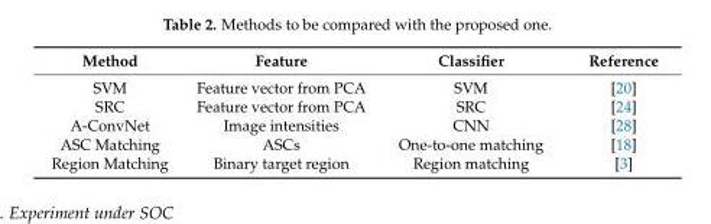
<table><thead><tr><td>Method</td><td>Feature</td><td>Classifier</td><td>Reference</td></tr></thead><tbody><tr><td>SVM</td><td>Feature vector from PCA</td><td>SVM</td><td>[20]</td></tr><tr><td>SRC</td><td>Feature vector from PCA</td><td>SRC</td><td>[24]</td></tr><tr><td>A-ConvNet</td><td>Image intensities</td><td>CNN</td><td>[28]</td></tr><tr><td>ASC Matching</td><td>ASCs</td><td>One-to-one matching</td><td>[18]</td></tr><tr><td>Region Matching</td><td>Binary target region</td><td>Region matching</td><td>[3]</td></tr></tbody></table>